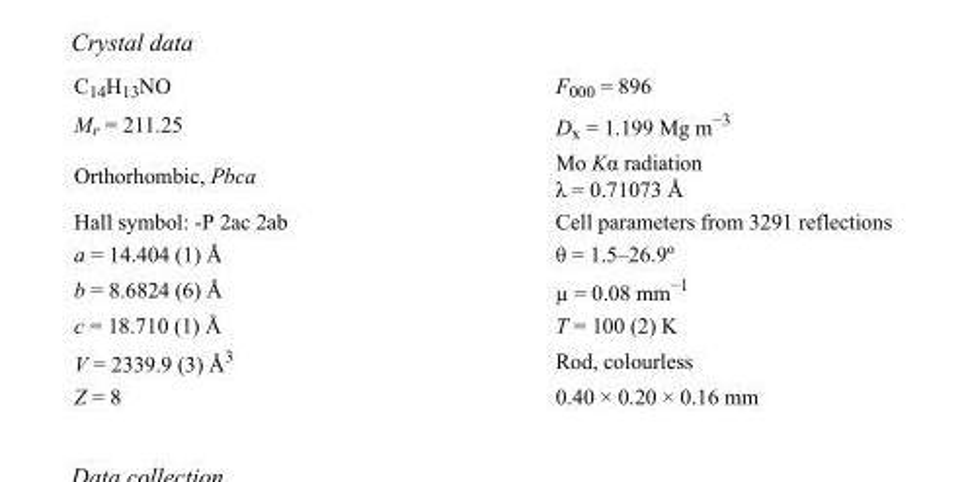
<table><tbody><tr><td>C<sub>14</sub>H<sub>13</sub>NO</td><td>F<sub>000</sub> = 896</td></tr><tr><td>M<sub>r</sub> = 211.25</td><td>D<sub>x</sub> = 1.199 Mg m<sup>−3</sup></td></tr><tr><td>Orthorhombic, Pbca</td><td>Mo Kα radiation λ = 0.71073 Å</td></tr><tr><td>Hall symbol: -P 2ac 2ab</td><td>Cell parameters from 3291 reflections</td></tr><tr><td>a = 14.404 (1) Å</td><td>θ = 1.5–26.9º</td></tr><tr><td>b = 8.6824 (6) Å</td><td>µ = 0.08 mm<sup>−1</sup></td></tr><tr><td>c = 18.710 (1) Å</td><td>T = 100 (2) K</td></tr><tr><td>V = 2339.9 (3) Å<sup>3</sup></td><td>Rod, colourless</td></tr><tr><td>Z = 8</td><td>0.40 × 0.20 × 0.16 mm</td></tr></tbody></table>